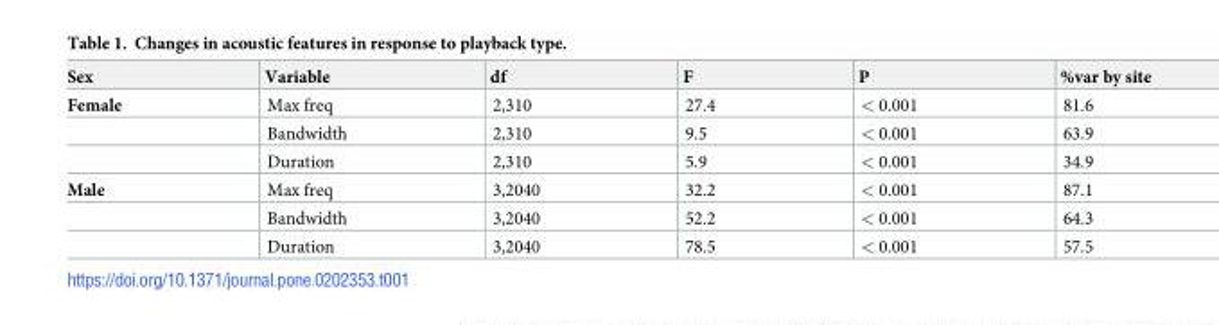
<table><thead><tr><td>Sex</td><td>Variable</td><td>df</td><td>F</td><td>P</td><td>%var by site</td></tr></thead><tbody><tr><td rowspan="3">Female</td><td>Max freq</td><td>2,310</td><td>27.4</td><td>&lt; 0.001</td><td>81.6</td></tr><tr><td>Bandwidth</td><td>2,310</td><td>9.5</td><td>&lt; 0.001</td><td>63.9</td></tr><tr><td>Duration</td><td>2,310</td><td>5.9</td><td>&lt; 0.001</td><td>34.9</td></tr><tr><td rowspan="3">Male</td><td>Max freq</td><td>3,2040</td><td>32.2</td><td>&lt; 0.001</td><td>87.1</td></tr><tr><td>Bandwidth</td><td>3,2040</td><td>52.2</td><td>&lt; 0.001</td><td>64.3</td></tr><tr><td>Duration</td><td>3,2040</td><td>78.5</td><td>&lt; 0.001</td><td>57.5</td></tr></tbody></table>